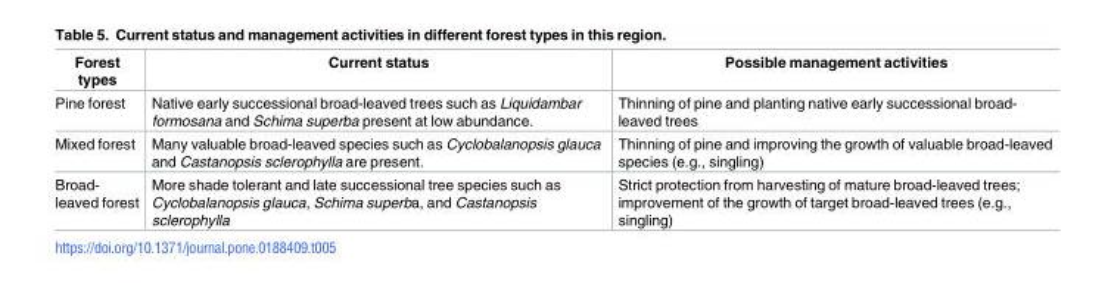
<table><thead><tr><td>Forest types</td><td>Current status</td><td>Possible management activities</td></tr></thead><tbody><tr><td>Pine forest</td><td>Native early successional broad-leaved trees such as Liquidambar formosana and Schima superba present at low abundance.</td><td>Thinning of pine and planting native early successional broad- leaved trees</td></tr><tr><td>Mixed forest</td><td>Many valuable broad-leaved species such as Cyclobalanopsis glauca and Castanopsis sclerophylla are present.</td><td>Thinning of pine and improving the growth of valuable broad-leaved species (e.g., singling)</td></tr><tr><td>Broad- leaved forest</td><td>More shade tolerant and late successional tree species such as Cyclobalanopsis glauca, Schima superba, and Castanopsis sclerophylla</td><td>Strict protection from harvesting of mature broad-leaved trees; improvement of the growth of target broad-leaved trees (e.g., singling)</td></tr></tbody></table>